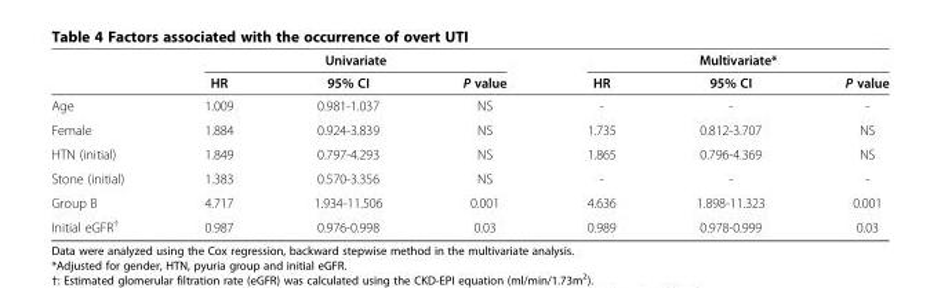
<table><thead><tr><td rowspan="2"></td><td colspan="3">Univariate</td><td colspan="3">Multivariate*</td></tr><tr><td>HR</td><td>95% CI</td><td>P value</td><td>HR</td><td>95% CI</td><td>P value</td></tr></thead><tbody><tr><td>Age</td><td>1.009</td><td>0.981-1.037</td><td>NS</td><td>-</td><td>-</td><td>-</td></tr><tr><td>Female</td><td>1.884</td><td>0.924-3.839</td><td>NS</td><td>1.735</td><td>0.812-3.707</td><td>NS</td></tr><tr><td>HTN (initial)</td><td>1.849</td><td>0.797-4.293</td><td>NS</td><td>1.865</td><td>0.796-4.369</td><td>NS</td></tr><tr><td>Stone (initial)</td><td>1.383</td><td>0.570-3.356</td><td>NS</td><td>-</td><td>-</td><td>-</td></tr><tr><td>Group B</td><td>4.717</td><td>1.934-11.506</td><td>0.001</td><td>4.636</td><td>1.898-11.323</td><td>0.001</td></tr><tr><td>Initial eGFR<sup>†</sup></td><td>0.987</td><td>0.976-0.998</td><td>0.03</td><td>0.989</td><td>0.978-0.999</td><td>0.03</td></tr></tbody></table>